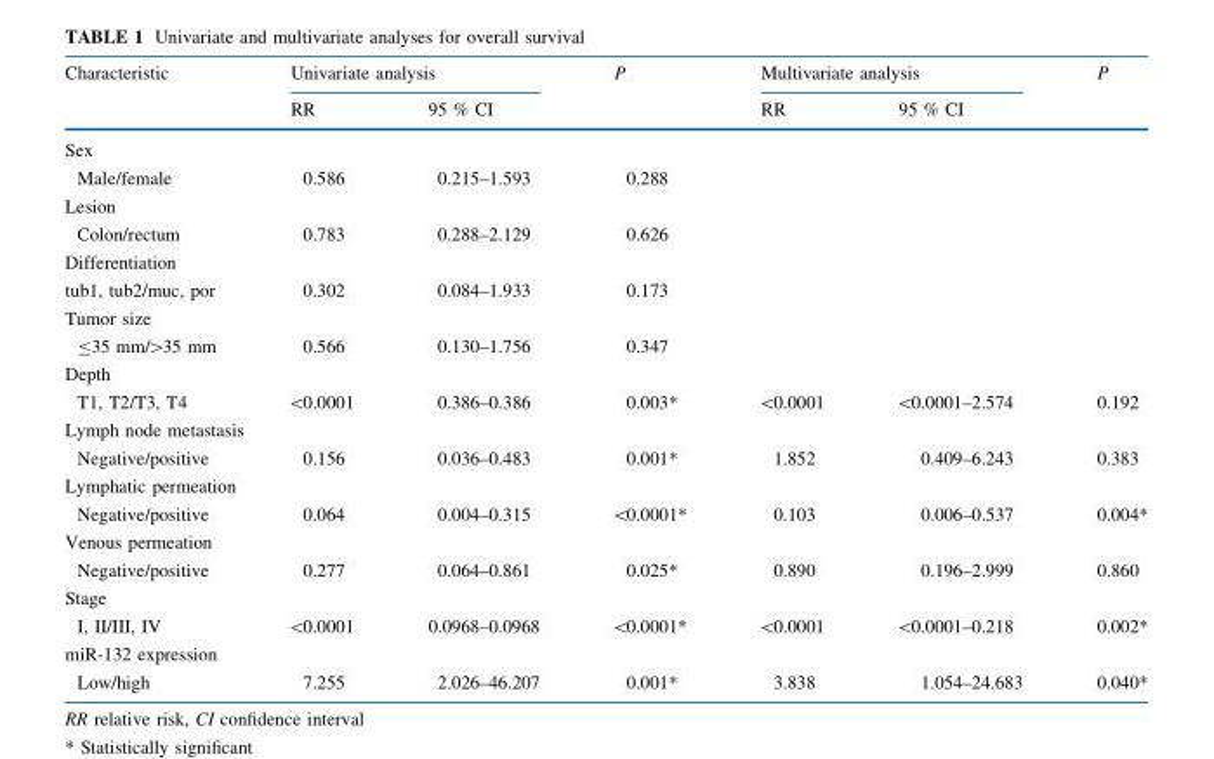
<table><thead><tr><td rowspan="2">Characteristic</td><td colspan="2">Univariate analysis</td><td rowspan="2">P</td><td colspan="2">Multivariate analysis</td><td rowspan="2">P</td></tr><tr><td>RR</td><td>95 % CI</td><td>RR</td><td>95 % CI</td></tr></thead><tbody><tr><td colspan="7">Sex</td></tr><tr><td>Male/female</td><td>0.586</td><td>0.215–1.593</td><td>0.288</td><td></td><td></td><td></td></tr><tr><td colspan="7">Lesion</td></tr><tr><td>Colon/rectum</td><td>0.783</td><td>0.288–2.129</td><td>0.626</td><td></td><td></td><td></td></tr><tr><td colspan="7">Differentiation</td></tr><tr><td>tub1, tub2/muc, por</td><td>0.302</td><td>0.084–1.933</td><td>0.173</td><td></td><td></td><td></td></tr><tr><td colspan="7">Tumor size</td></tr><tr><td>≤35 mm/&gt;35 mm</td><td>0.566</td><td>0.130–1.756</td><td>0.347</td><td></td><td></td><td></td></tr><tr><td colspan="7">Depth</td></tr><tr><td>T1, T2/T3, T4</td><td>&lt;0.0001</td><td>0.386–0.386</td><td>0.003*</td><td>&lt;0.0001</td><td>&lt;0.0001–2.574</td><td>0.192</td></tr><tr><td colspan="7">Lymph node metastasis</td></tr><tr><td>Negative/positive</td><td>0.156</td><td>0.036–0.483</td><td>0.001*</td><td>1.852</td><td>0.409–6.243</td><td>0.383</td></tr><tr><td colspan="7">Lymphatic permeation</td></tr><tr><td>Negative/positive</td><td>0.064</td><td>0.004–0.315</td><td>&lt;0.0001*</td><td>0.103</td><td>0.006–0.537</td><td>0.004*</td></tr><tr><td colspan="7">Venous permeation</td></tr><tr><td>Negative/positive</td><td>0.277</td><td>0.064–0.861</td><td>0.025*</td><td>0.890</td><td>0.196–2.999</td><td>0.860</td></tr><tr><td colspan="7">Stage</td></tr><tr><td>I, II/III, IV</td><td>&lt;0.0001</td><td>0.0968–0.0968</td><td>&lt;0.0001*</td><td>&lt;0.0001</td><td>&lt;0.0001–0.218</td><td>0.002*</td></tr><tr><td colspan="7">miR-132 expression</td></tr><tr><td>Low/high</td><td>7.255</td><td>2.026–46.207</td><td>0.001*</td><td>3.838</td><td>1.054–24.683</td><td>0.040*</td></tr></tbody></table>